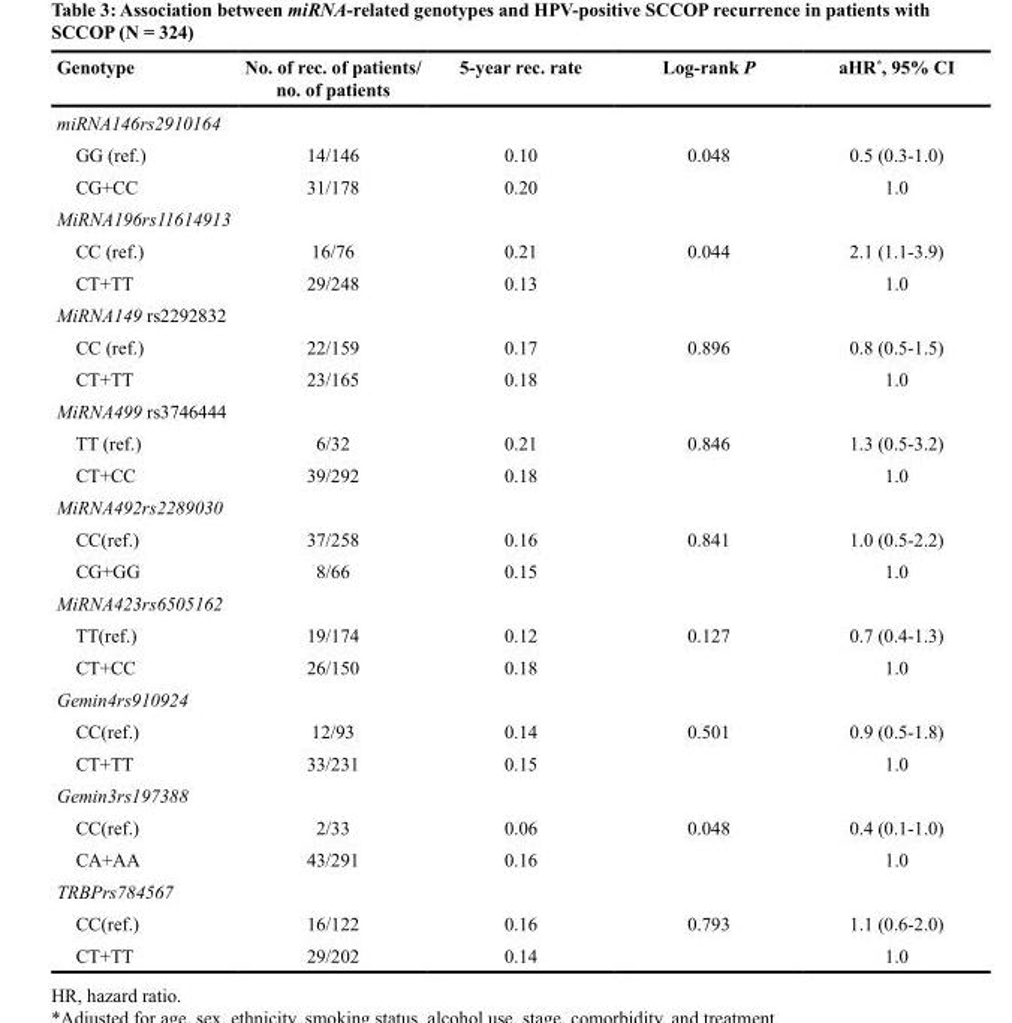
<table><thead><tr><td>Genotype</td><td>No. of rec. of patients/ no. of patients</td><td>5-year rec. rate</td><td>Log-rank P</td><td>aHR*, 95% CI</td></tr></thead><tbody><tr><td colspan="5">miRNA146rs2910164</td></tr><tr><td>GG (ref.)</td><td>14/146</td><td>0.10</td><td>0.048</td><td>0.5 (0.3-1.0)</td></tr><tr><td>CG+CC</td><td>31/178</td><td>0.20</td><td></td><td>1.0</td></tr><tr><td colspan="5">MiRNA196rs11614913</td></tr><tr><td>CC (ref.)</td><td>16/76</td><td>0.21</td><td>0.044</td><td>2.1 (1.1-3.9)</td></tr><tr><td>CT+TT</td><td>29/248</td><td>0.13</td><td></td><td>1.0</td></tr><tr><td colspan="5">MiRNA149 rs2292832</td></tr><tr><td>CC (ref.)</td><td>22/159</td><td>0.17</td><td>0.896</td><td>0.8 (0.5-1.5)</td></tr><tr><td>CT+TT</td><td>23/165</td><td>0.18</td><td></td><td>1.0</td></tr><tr><td colspan="5">MiRNA499 rs3746444</td></tr><tr><td>TT (ref.)</td><td>6/32</td><td>0.21</td><td>0.846</td><td>1.3 (0.5-3.2)</td></tr><tr><td>CT+CC</td><td>39/292</td><td>0.18</td><td></td><td>1.0</td></tr><tr><td colspan="5">MiRNA492rs2289030</td></tr><tr><td>CC(ref.)</td><td>37/258</td><td>0.16</td><td>0.841</td><td>1.0 (0.5-2.2)</td></tr><tr><td>CG+GG</td><td>8/66</td><td>0.15</td><td></td><td>1.0</td></tr><tr><td colspan="5">MiRNA423rs6505162</td></tr><tr><td>TT(ref.)</td><td>19/174</td><td>0.12</td><td>0.127</td><td>0.7 (0.4-1.3)</td></tr><tr><td>CT+CC</td><td>26/150</td><td>0.18</td><td></td><td>1.0</td></tr><tr><td colspan="5">Gemin4rs910924</td></tr><tr><td>CC(ref.)</td><td>12/93</td><td>0.14</td><td>0.501</td><td>0.9 (0.5-1.8)</td></tr><tr><td>CT+TT</td><td>33/231</td><td>0.15</td><td></td><td>1.0</td></tr><tr><td colspan="5">Gemin3rs197388</td></tr><tr><td>CC(ref.)</td><td>2/33</td><td>0.06</td><td>0.048</td><td>0.4 (0.1-1.0)</td></tr><tr><td>CA+AA</td><td>43/291</td><td>0.16</td><td></td><td>1.0</td></tr><tr><td colspan="5">TRBPrs784567</td></tr><tr><td>CC(ref.)</td><td>16/122</td><td>0.16</td><td>0.793</td><td>1.1 (0.6-2.0)</td></tr><tr><td>CT+TT</td><td>29/202</td><td>0.14</td><td></td><td>1.0</td></tr></tbody></table>